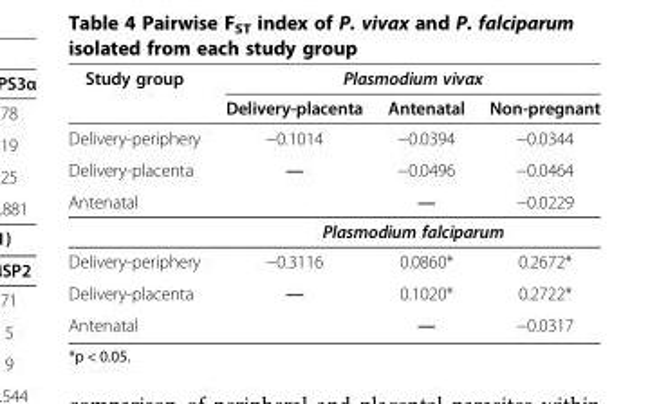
<table><thead><tr><td rowspan="2">Study group</td><td colspan="3">Plasmodium vivax</td></tr><tr><td>Delivery-placenta</td><td>Antenatal</td><td>Non-pregnant</td></tr></thead><tbody><tr><td>Delivery-periphery</td><td>−0.1014</td><td>−0.0394</td><td>−0.0344</td></tr><tr><td>Delivery-placenta</td><td>—</td><td>−0.0496</td><td>−0.0464</td></tr><tr><td rowspan="2">Antenatal</td><td></td><td>—</td><td>−0.0229</td></tr><tr><td colspan="3">Plasmodium falciparum</td></tr><tr><td>Delivery-periphery</td><td>−0.3116</td><td>0.0860*</td><td>0.2672*</td></tr><tr><td>Delivery-placenta</td><td>—</td><td>0.1020*</td><td>0.2722*</td></tr><tr><td>Antenatal</td><td></td><td>—</td><td>−0.0317</td></tr></tbody></table>